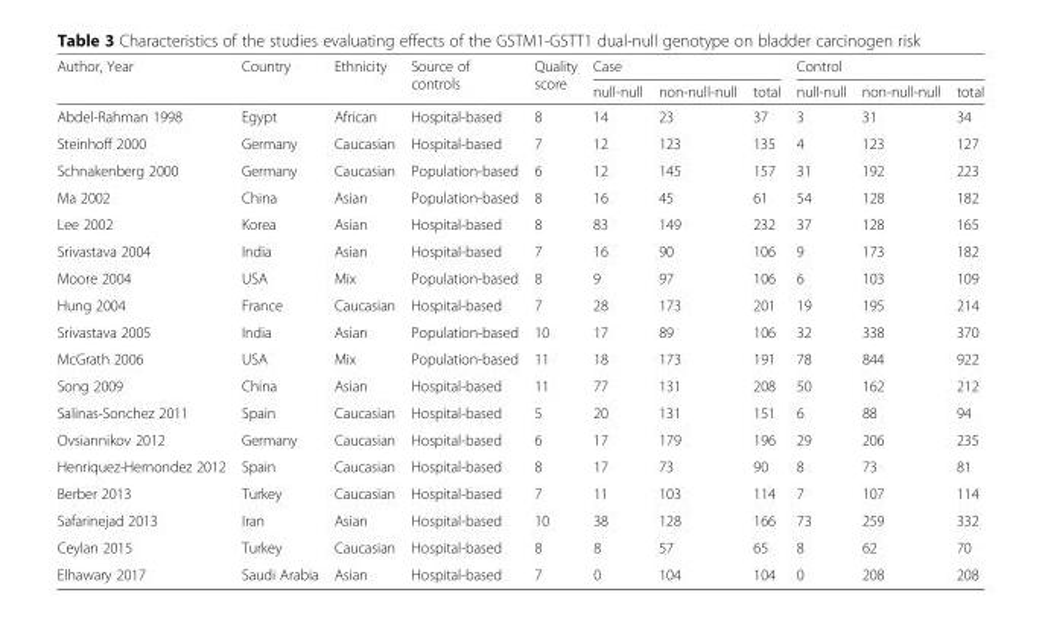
<table><thead><tr><td rowspan="2">Author, Year</td><td rowspan="2">Country</td><td rowspan="2">Ethnicity</td><td rowspan="2">Source of controls</td><td rowspan="2">Quality score</td><td colspan="3">Case</td><td colspan="3">Control</td></tr><tr><td>null-null</td><td>non-null-null</td><td>total</td><td>null-null</td><td>non-null-null</td><td>total</td></tr></thead><tbody><tr><td>Abdel-Rahman 1998</td><td>Egypt</td><td>African</td><td>Hospital-based</td><td>8</td><td>14</td><td>23</td><td>37</td><td>3</td><td>31</td><td>34</td></tr><tr><td>Steinhoff 2000</td><td>Germany</td><td>Caucasian</td><td>Hospital-based</td><td>7</td><td>12</td><td>123</td><td>135</td><td>4</td><td>123</td><td>127</td></tr><tr><td>Schnakenberg 2000</td><td>Germany</td><td>Caucasian</td><td>Population-based</td><td>6</td><td>12</td><td>145</td><td>157</td><td>31</td><td>192</td><td>223</td></tr><tr><td>Ma 2002</td><td>China</td><td>Asian</td><td>Population-based</td><td>8</td><td>16</td><td>45</td><td>61</td><td>54</td><td>128</td><td>182</td></tr><tr><td>Lee 2002</td><td>Korea</td><td>Asian</td><td>Hospital-based</td><td>8</td><td>83</td><td>149</td><td>232</td><td>37</td><td>128</td><td>165</td></tr><tr><td>Srivastava 2004</td><td>India</td><td>Asian</td><td>Hospital-based</td><td>7</td><td>16</td><td>90</td><td>106</td><td>9</td><td>173</td><td>182</td></tr><tr><td>Moore 2004</td><td>USA</td><td>Mix</td><td>Population-based</td><td>8</td><td>9</td><td>97</td><td>106</td><td>6</td><td>103</td><td>109</td></tr><tr><td>Hung 2004</td><td>France</td><td>Caucasian</td><td>Hospital-based</td><td>7</td><td>28</td><td>173</td><td>201</td><td>19</td><td>195</td><td>214</td></tr><tr><td>Srivastava 2005</td><td>India</td><td>Asian</td><td>Population-based</td><td>10</td><td>17</td><td>89</td><td>106</td><td>32</td><td>338</td><td>370</td></tr><tr><td>McGrath 2006</td><td>USA</td><td>Mix</td><td>Population-based</td><td>11</td><td>18</td><td>173</td><td>191</td><td>78</td><td>844</td><td>922</td></tr><tr><td>Song 2009</td><td>China</td><td>Asian</td><td>Hospital-based</td><td>11</td><td>77</td><td>131</td><td>208</td><td>50</td><td>162</td><td>212</td></tr><tr><td>Salinas-Sonchez 2011</td><td>Spain</td><td>Caucasian</td><td>Hospital-based</td><td>5</td><td>20</td><td>131</td><td>151</td><td>6</td><td>88</td><td>94</td></tr><tr><td>Ovsiannikov 2012</td><td>Germany</td><td>Caucasian</td><td>Hospital-based</td><td>6</td><td>17</td><td>179</td><td>196</td><td>29</td><td>206</td><td>235</td></tr><tr><td>Henriquez-Hernondez 2012</td><td>Spain</td><td>Caucasian</td><td>Hospital-based</td><td>8</td><td>17</td><td>73</td><td>90</td><td>8</td><td>73</td><td>81</td></tr><tr><td>Berber 2013</td><td>Turkey</td><td>Caucasian</td><td>Hospital-based</td><td>7</td><td>11</td><td>103</td><td>114</td><td>7</td><td>107</td><td>114</td></tr><tr><td>Safarinejad 2013</td><td>Iran</td><td>Asian</td><td>Hospital-based</td><td>10</td><td>38</td><td>128</td><td>166</td><td>73</td><td>259</td><td>332</td></tr><tr><td>Ceylan 2015</td><td>Turkey</td><td>Caucasian</td><td>Hospital-based</td><td>8</td><td>8</td><td>57</td><td>65</td><td>8</td><td>62</td><td>70</td></tr><tr><td>Elhawary 2017</td><td>Saudi Arabia</td><td>Asian</td><td>Hospital-based</td><td>7</td><td>0</td><td>104</td><td>104</td><td>0</td><td>208</td><td>208</td></tr></tbody></table>